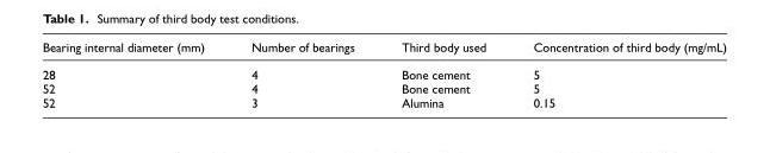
<table><thead><tr><td>Bearing internal diameter (mm)</td><td>Number of bearings</td><td>Third body used</td><td>Concentration of third body (mg/mL)</td></tr></thead><tbody><tr><td>28</td><td>4</td><td>Bone cement</td><td>5</td></tr><tr><td>52</td><td>4</td><td>Bone cement</td><td>5</td></tr><tr><td>52</td><td>3</td><td>Alumina</td><td>0.15</td></tr></tbody></table>